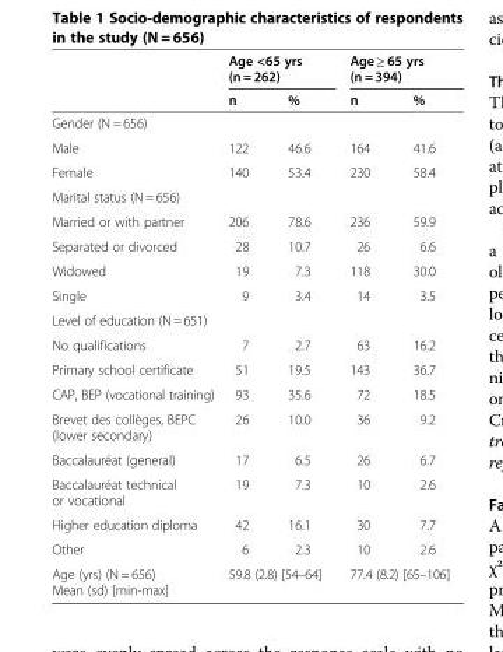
<table><thead><tr><td rowspan="2"></td><td colspan="2">Age &lt;65 yrs (n = 262)</td><td colspan="2">Age ≥ 65 yrs (n = 394)</td></tr><tr><td>n</td><td>%</td><td>n</td><td>%</td></tr></thead><tbody><tr><td colspan="5">Gender (N = 656)</td></tr><tr><td>Male</td><td>122</td><td>46.6</td><td>164</td><td>41.6</td></tr><tr><td>Female</td><td>140</td><td>53.4</td><td>230</td><td>58.4</td></tr><tr><td colspan="5">Marital status (N = 656)</td></tr><tr><td>Married or with partner</td><td>206</td><td>78.6</td><td>236</td><td>59.9</td></tr><tr><td>Separated or divorced</td><td>28</td><td>10.7</td><td>26</td><td>6.6</td></tr><tr><td>Widowed</td><td>19</td><td>7.3</td><td>118</td><td>30.0</td></tr><tr><td>Single</td><td>9</td><td>3.4</td><td>14</td><td>3.5</td></tr><tr><td colspan="5">Level of education (N= 651)</td></tr><tr><td>No qualifications</td><td>7</td><td>2.7</td><td>63</td><td>16.2</td></tr><tr><td>Primary school certificate</td><td>51</td><td>19.5</td><td>143</td><td>36.7</td></tr><tr><td>CAP, BEP (vocational training)</td><td>93</td><td>35.6</td><td>72</td><td>18.5</td></tr><tr><td>Brevet des collèges, BEPC (lower secondary)</td><td>26</td><td>10.0</td><td>36</td><td>9.2</td></tr><tr><td>Baccalauréat (general)</td><td>17</td><td>6.5</td><td>26</td><td>6.7</td></tr><tr><td>Baccalauréat technical or vocational</td><td>19</td><td>7.3</td><td>10</td><td>2.6</td></tr><tr><td>Higher education diploma</td><td>42</td><td>16.1</td><td>30</td><td>7.7</td></tr><tr><td>Other</td><td>6</td><td>2.3</td><td>10</td><td>2.6</td></tr><tr><td>Age (yrs) (N = 656) Mean (sd) [min-max]</td><td colspan="2">59.8 (2.8) [54–64]</td><td colspan="2">77.4 (8.2) [65–106]</td></tr></tbody></table>